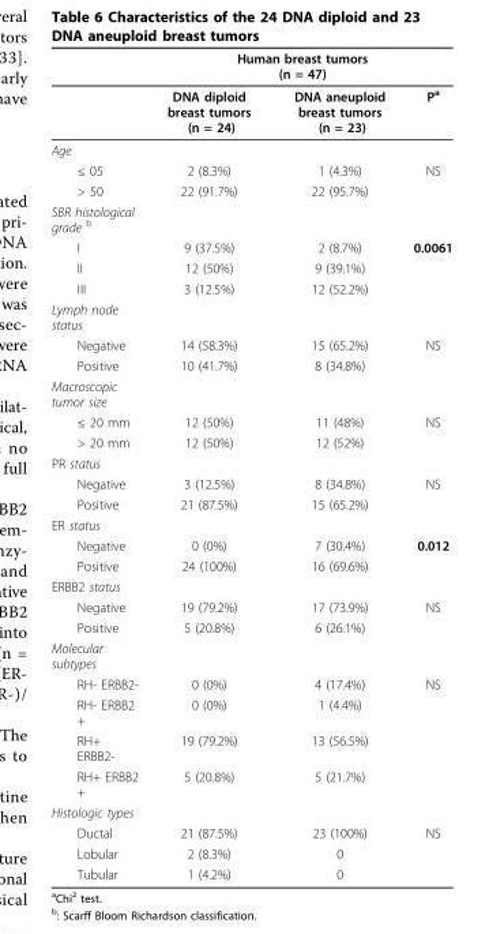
<table><thead><tr><td rowspan="2"></td><td colspan="3">Human breast tumors (n = 47)</td></tr><tr><td>DNA diploid breast tumors (n = 24)</td><td>DNA aneuploid breast tumors (n = 23)</td><td>P<sup>a</sup></td></tr></thead><tbody><tr><td colspan="4">Age</td></tr><tr><td>≤ 05</td><td>2 (8.3%)</td><td>1 (4.3%)</td><td>NS</td></tr><tr><td>&gt; 50</td><td>22 (91.7%)</td><td>22 (95.7%)</td><td></td></tr><tr><td colspan="4">SBR histological grade <sup>b</sup></td></tr><tr><td>I</td><td>9 (37.5%)</td><td>2 (8.7%)</td><td>0.0061</td></tr><tr><td>II</td><td>12 (50%)</td><td>9 (39.1%)</td><td></td></tr><tr><td>III</td><td>3 (12.5%)</td><td>12 (52.2%)</td><td></td></tr><tr><td colspan="4">Lymph node status</td></tr><tr><td>Negative</td><td>14 (58.3%)</td><td>15 (65.2%)</td><td>NS</td></tr><tr><td>Positive</td><td>10 (41.7%)</td><td>8 (34.8%)</td><td></td></tr><tr><td colspan="4">Macroscopic tumor size</td></tr><tr><td>≤ 20 mm</td><td>12 (50%)</td><td>11 (48%)</td><td>NS</td></tr><tr><td>&gt; 20 mm</td><td>12 (50%)</td><td>12 (52%)</td><td></td></tr><tr><td colspan="4">PR status</td></tr><tr><td>Negative</td><td>3 (12.5%)</td><td>8 (34.8%)</td><td>NS</td></tr><tr><td>Positive</td><td>21 (87.5%)</td><td>15 (65.2%)</td><td></td></tr><tr><td colspan="4">ER status</td></tr><tr><td>Negative</td><td>0 (0%)</td><td>7 (30.4%)</td><td>0.012</td></tr><tr><td>Positive</td><td>24 (100%)</td><td>16 (69.6%)</td><td></td></tr><tr><td colspan="4">ERBB2 status</td></tr><tr><td>Negative</td><td>19 (79.2%)</td><td>17 (73.9%)</td><td>NS</td></tr><tr><td>Positive</td><td>5 (20.8%)</td><td>6 (26.1%)</td><td></td></tr><tr><td colspan="4">Molecular subtypes</td></tr><tr><td>RH- ERBB2-</td><td>0 (0%)</td><td>4 (17.4%)</td><td>NS</td></tr><tr><td>RH- ERBB2 +</td><td>0 (0%)</td><td>1 (4.4%)</td><td></td></tr><tr><td>RH+ ERBB2-</td><td>19 (79.2%)</td><td>13 (56.5%)</td><td></td></tr><tr><td>RH+ ERBB2 +</td><td>5 (20.8%)</td><td>5 (21.7%)</td><td></td></tr><tr><td colspan="4">Histologic types</td></tr><tr><td>Ductal</td><td>21 (87.5%)</td><td>23 (100%)</td><td>NS</td></tr><tr><td>Lobular</td><td>2 (8.3%)</td><td>0</td><td></td></tr><tr><td>Tubular</td><td>1 (4.2%)</td><td>0</td><td></td></tr></tbody></table>